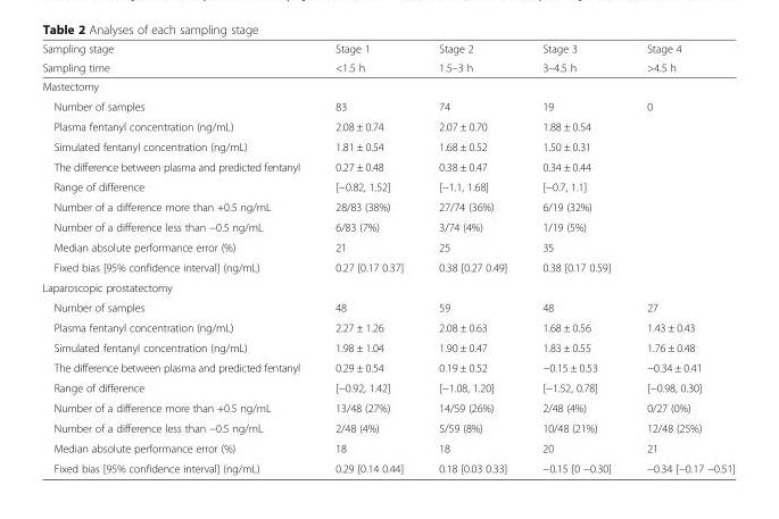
<table><thead><tr><td rowspan="2">Sampling stage Sampling time</td><td rowspan="2">Stage 1 &lt;1.5 h</td><td rowspan="2">Stage 2 1.5–3 h</td><td rowspan="2">Stage 3 3–4.5 h</td><td rowspan="2">Stage 4 &gt;4.5 h</td></tr><tr></tr></thead><tbody><tr><td colspan="5">Mastectomy</td></tr><tr><td>Number of samples</td><td>83</td><td>74</td><td>19</td><td>0</td></tr><tr><td>Plasma fentanyl concentration (ng/mL)</td><td>2.08 ± 0.74</td><td>2.07 ± 0.70</td><td>1.88 ± 0.54</td><td></td></tr><tr><td>Simulated fentanyl concentration (ng/mL)</td><td>1.81 ± 0.54</td><td>1.68 ± 0.52</td><td>1.50 ± 0.31</td><td></td></tr><tr><td>The difference between plasma and predicted fentanyl</td><td>0.27 ± 0.48</td><td>0.38 ± 0.47</td><td>0.34 ± 0.44</td><td></td></tr><tr><td>Range of difference</td><td>[−0.82, 1.52]</td><td>[−1.1, 1.68]</td><td>[−0.7, 1.1]</td><td></td></tr><tr><td>Number of a difference more than +0.5 ng/mL</td><td>28/83 (38%)</td><td>27/74 (36%)</td><td>6/19 (32%)</td><td></td></tr><tr><td>Number of a difference less than −0.5 ng/mL</td><td>6/83 (7%)</td><td>3/74 (4%)</td><td>1/19 (5%)</td><td></td></tr><tr><td>Median absolute performance error (%)</td><td>21</td><td>25</td><td>35</td><td></td></tr><tr><td>Fixed bias [95% confidence interval] (ng/mL)</td><td>0.27 [0.17 0.37]</td><td>0.38 [0.27 0.49]</td><td>0.38 [0.17 0.59]</td><td></td></tr><tr><td colspan="5">Laparoscopic prostatectomy</td></tr><tr><td>Number of samples</td><td>48</td><td>59</td><td>48</td><td>27</td></tr><tr><td>Plasma fentanyl concentration (ng/mL)</td><td>2.27 ± 1.26</td><td>2.08 ± 0.63</td><td>1.68 ± 0.56</td><td>1.43 ± 0.43</td></tr><tr><td>Simulated fentanyl concentration (ng/mL)</td><td>1.98 ± 1.04</td><td>1.90 ± 0.47</td><td>1.83 ± 0.55</td><td>1.76 ± 0.48</td></tr><tr><td>The difference between plasma and predicted fentanyl</td><td>0.29 ± 0.54</td><td>0.19 ± 0.52</td><td>−0.15 ± 0.53</td><td>−0.34 ± 0.41</td></tr><tr><td>Range of difference</td><td>[−0.92, 1.42]</td><td>[−1.08, 1.20]</td><td>[−1.52, 0.78]</td><td>[−0.98, 0.30]</td></tr><tr><td>Number of a difference more than +0.5 ng/mL</td><td>13/48 (27%)</td><td>14/59 (26%)</td><td>2/48 (4%)</td><td>0/27 (0%)</td></tr><tr><td>Number of a difference less than −0.5 ng/mL</td><td>2/48 (4%)</td><td>5/59 (8%)</td><td>10/48 (21%)</td><td>12/48 (25%)</td></tr><tr><td>Median absolute performance error (%)</td><td>18</td><td>18</td><td>20</td><td>21</td></tr><tr><td>Fixed bias [95% confidence interval] (ng/mL)</td><td>0.29 [0.14 0.44]</td><td>0.18 [0.03 0.33]</td><td>−0.15 [0 −0.30]</td><td>−0.34 [−0.17 −0.51]</td></tr></tbody></table>